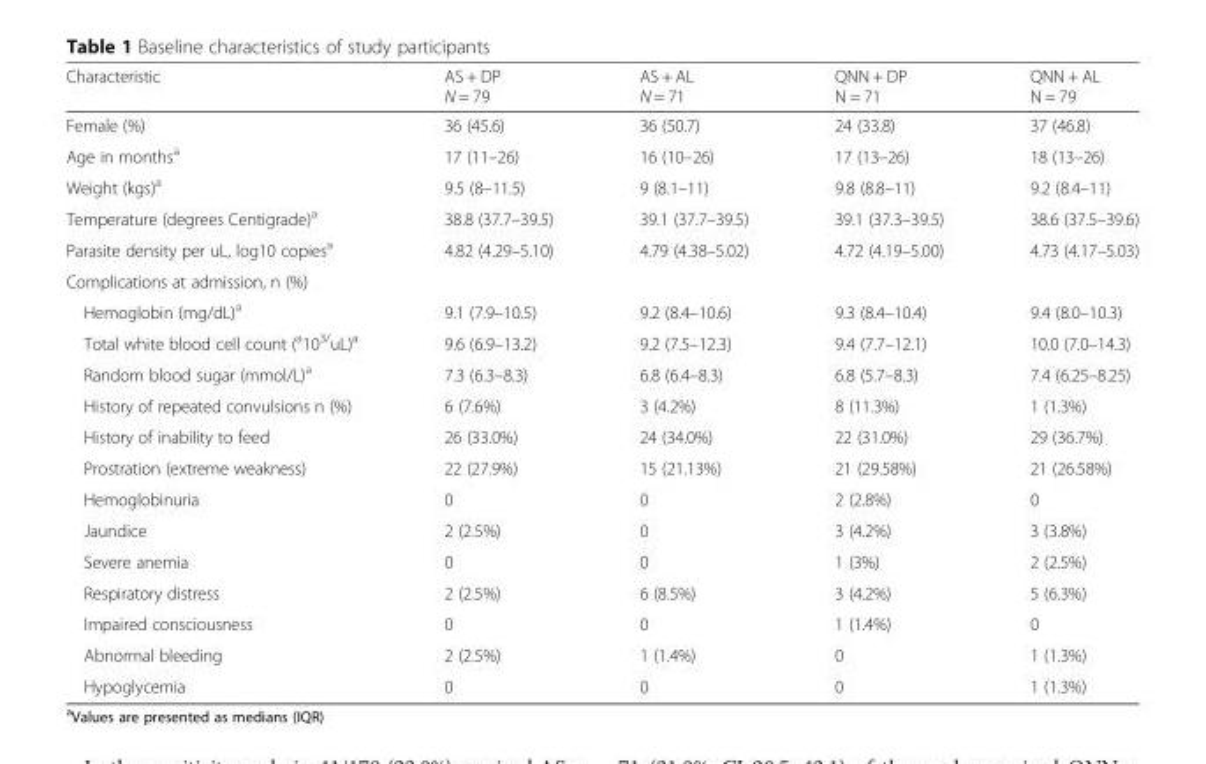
<table><thead><tr><td>Characteristic</td><td>AS + DP N = 79</td><td>AS + AL N = 71</td><td>QNN + DP N = 71</td><td>QNN + AL N = 79</td></tr></thead><tbody><tr><td>Female (%)</td><td>36 (45.6)</td><td>36 (50.7)</td><td>24 (33.8)</td><td>37 (46.8)</td></tr><tr><td>Age in months<sup>a</sup></td><td>17 (11–26)</td><td>16 (10–26)</td><td>17 (13–26)</td><td>18 (13–26)</td></tr><tr><td>Weight (kgs)<sup>a</sup></td><td>9.5 (8–11.5)</td><td>9 (8.1–11)</td><td>9.8 (8.8–11)</td><td>9.2 (8.4–11)</td></tr><tr><td>Temperature (degrees Centigrade)<sup>a</sup></td><td>38.8 (37.7–39.5)</td><td>39.1 (37.7–39.5)</td><td>39.1 (37.3–39.5)</td><td>38.6 (37.5–39.6)</td></tr><tr><td>Parasite density per uL, log10 copies<sup>a</sup></td><td>4.82 (4.29–5.10)</td><td>4.79 (4.38–5.02)</td><td>4.72 (4.19–5.00)</td><td>4.73 (4.17–5.03)</td></tr><tr><td colspan="5">Complications at admission, n (%)</td></tr><tr><td>Hemoglobin (mg/dL)<sup>a</sup></td><td>9.1 (7.9–10.5)</td><td>9.2 (8.4–10.6)</td><td>9.3 (8.4–10.4)</td><td>9.4 (8.0–10.3)</td></tr><tr><td>Total white blood cell count (<sup>a</sup>10<sup>3/</sup>uL)<sup>a</sup></td><td>9.6 (6.9–13.2)</td><td>9.2 (7.5–12.3)</td><td>9.4 (7.7–12.1)</td><td>10.0 (7.0–14.3)</td></tr><tr><td>Random blood sugar (mmol/L)<sup>a</sup></td><td>7.3 (6.3–8.3)</td><td>6.8 (6.4–8.3)</td><td>6.8 (5.7–8.3)</td><td>7.4 (6.25–8.25)</td></tr><tr><td>History of repeated convulsions n (%)</td><td>6 (7.6%)</td><td>3 (4.2%)</td><td>8 (11.3%)</td><td>1 (1.3%)</td></tr><tr><td>History of inability to feed</td><td>26 (33.0%)</td><td>24 (34.0%)</td><td>22 (31.0%)</td><td>29 (36.7%)</td></tr><tr><td>Prostration (extreme weakness)</td><td>22 (27.9%)</td><td>15 (21.13%)</td><td>21 (29.58%)</td><td>21 (26.58%)</td></tr><tr><td>Hemoglobinuria</td><td>0</td><td>0</td><td>2 (2.8%)</td><td>0</td></tr><tr><td>Jaundice</td><td>2 (2.5%)</td><td>0</td><td>3 (4.2%)</td><td>3 (3.8%)</td></tr><tr><td>Severe anemia</td><td>0</td><td>0</td><td>1 (3%)</td><td>2 (2.5%)</td></tr><tr><td>Respiratory distress</td><td>2 (2.5%)</td><td>6 (8.5%)</td><td>3 (4.2%)</td><td>5 (6.3%)</td></tr><tr><td>Impaired consciousness</td><td>0</td><td>0</td><td>1 (1.4%)</td><td>0</td></tr><tr><td>Abnormal bleeding</td><td>2 (2.5%)</td><td>1 (1.4%)</td><td>0</td><td>1 (1.3%)</td></tr><tr><td>Hypoglycemia</td><td>0</td><td>0</td><td>0</td><td>1 (1.3%)</td></tr></tbody></table>